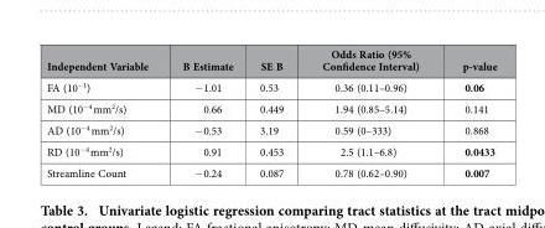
<table><thead><tr><td>Independent Variable</td><td>B Estimate</td><td>SE B</td><td>Odds Ratio (95% Confidence Interval)</td><td>p-value</td></tr></thead><tbody><tr><td>FA (10<sup>−1</sup>)</td><td>− 1.01</td><td>0.53</td><td>0.36 (0.11–0.96)</td><td>0.06</td></tr><tr><td>MD (10<sup>−4</sup> mm<sup>2</sup>/s)</td><td>0.66</td><td>0.449</td><td>1.94 (0.85–5.14)</td><td>0.141</td></tr><tr><td>AD (10<sup>−4</sup> mm<sup>2</sup>/s)</td><td>− 0.53</td><td>3.19</td><td>0.59 (0–333)</td><td>0.868</td></tr><tr><td>RD (10<sup>−4</sup> mm<sup>2</sup>/s)</td><td>0.91</td><td>0.453</td><td>2.5 (1.1–6.8)</td><td>0.0433</td></tr><tr><td>Streamline Count</td><td>− 0.24</td><td>0.087</td><td>0.78 (0.62–0.90)</td><td>0.007</td></tr></tbody></table>